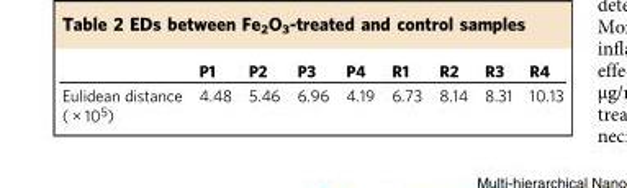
<table><thead><tr><td></td><td>P1</td><td>P2</td><td>P3</td><td>P4</td><td>R1</td><td>R2</td><td>R3</td><td>R4</td></tr></thead><tbody><tr><td>Eulidean distance ( × 10<sup>5</sup>)</td><td>4.48</td><td>5.46</td><td>6.96</td><td>4.19</td><td>6.73</td><td>8.14</td><td>8.31</td><td>10.13</td></tr></tbody></table>